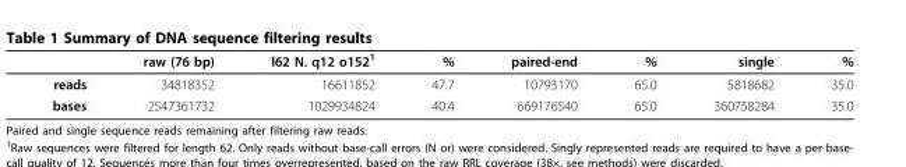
<table><thead><tr><td></td><td>raw (76 bp)</td><td>l62 N. q12 o152<sup>1</sup></td><td>%</td><td>paired-end</td><td>%</td><td>single</td><td>%</td></tr></thead><tbody><tr><td>reads</td><td>34818352</td><td>16611852</td><td>47.7</td><td>10793170</td><td>65.0</td><td>5818682</td><td>35.0</td></tr><tr><td>bases</td><td>2547361732</td><td>1029934824</td><td>40.4</td><td>669176540</td><td>65.0</td><td>360758284</td><td>35.0</td></tr></tbody></table>